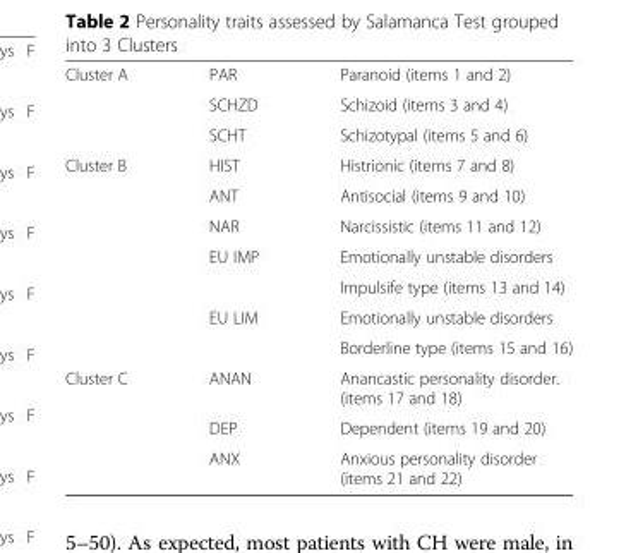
<table><tbody><tr><td rowspan="3">Cluster A</td><td>PAR</td><td>Paranoid (items 1 and 2)</td></tr><tr><td>SCHZD</td><td>Schizoid (items 3 and 4)</td></tr><tr><td>SCHT</td><td>Schizotypal (items 5 and 6)</td></tr><tr><td rowspan="7">Cluster B</td><td>HIST</td><td>Histrionic (items 7 and 8)</td></tr><tr><td>ANT</td><td>Antisocial (items 9 and 10)</td></tr><tr><td>NAR</td><td>Narcissistic (items 11 and 12)</td></tr><tr><td rowspan="2">EU IMP</td><td>Emotionally unstable disorders</td></tr><tr><td>Impulsife type (items 13 and 14)</td></tr><tr><td rowspan="2">EU LIM</td><td>Emotionally unstable disorders</td></tr><tr><td>Borderline type (items 15 and 16)</td></tr><tr><td rowspan="3">Cluster C</td><td>ANAN</td><td>Anancastic personality disorder. (items 17 and 18)</td></tr><tr><td>DEP</td><td>Dependent (items 19 and 20)</td></tr><tr><td>ANX</td><td>Anxious personality disorder (items 21 and 22)</td></tr></tbody></table>